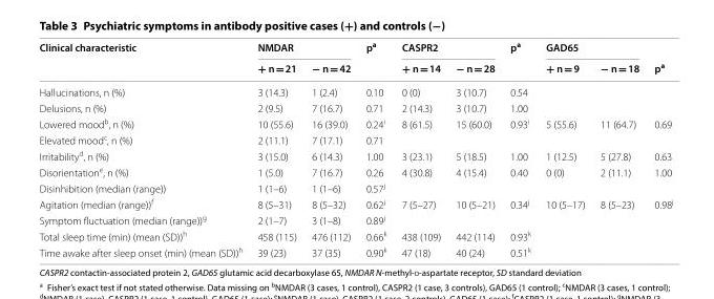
<table><thead><tr><td rowspan="2">Clinical characteristic</td><td colspan="2">NMDAR</td><td rowspan="2">p<sup>a</sup></td><td colspan="2">CASPR2</td><td rowspan="2">p<sup>a</sup></td><td colspan="2">GAD65</td><td rowspan="2">p<sup>a</sup></td></tr><tr><td>+ n = 21</td><td>− n = 42</td><td>+ n = 14</td><td>− n = 28</td><td>+ n = 9</td><td>− n = 18</td></tr></thead><tbody><tr><td>Hallucinations, n (%)</td><td>3 (14.3)</td><td>1 (2.4)</td><td>0.10</td><td>0 (0)</td><td>3 (10.7)</td><td>0.54</td><td></td><td></td><td></td></tr><tr><td>Delusions, n (%)</td><td>2 (9.5)</td><td>7 (16.7)</td><td>0.71</td><td>2 (14.3)</td><td>3 (10.7)</td><td>1.00</td><td></td><td></td><td></td></tr><tr><td>Lowered mood<sup>b</sup>, n (%)</td><td>10 (55.6)</td><td>16 (39.0)</td><td>0.24<sup>i</sup></td><td>8 (61.5)</td><td>15 (60.0)</td><td>0.93<sup>i</sup></td><td>5 (55.6)</td><td>11 (64.7)</td><td>0.69</td></tr><tr><td>Elevated mood<sup>c</sup>, n (%)</td><td>2 (11.1)</td><td>7 (17.1)</td><td>0.71</td><td></td><td></td><td></td><td></td><td></td><td></td></tr><tr><td>Irritability<sup>d</sup>, n (%)</td><td>3 (15.0)</td><td>6 (14.3)</td><td>1.00</td><td>3 (23.1)</td><td>5 (18.5)</td><td>1.00</td><td>1 (12.5)</td><td>5 (27.8)</td><td>0.63</td></tr><tr><td>Disorientation<sup>e</sup>, n (%)</td><td>1 (5.0)</td><td>7 (16.7)</td><td>0.26</td><td>4 (30.8)</td><td>4 (15.4)</td><td>0.40</td><td>0 (0)</td><td>2 (11.1)</td><td>1.00</td></tr><tr><td>Disinhibition (median (range))</td><td>1 (1–6)</td><td>1 (1–6)</td><td>0.57<sup>j</sup></td><td></td><td></td><td></td><td></td><td></td><td></td></tr><tr><td>Agitation (median (range))<sup>f</sup></td><td>8 (5–31)</td><td>8 (5–32)</td><td>0.62<sup>j</sup></td><td>7 (5–27)</td><td>10 (5–21)</td><td>0.34<sup>j</sup></td><td>10 (5–17)</td><td>8 (5–23)</td><td>0.98<sup>j</sup></td></tr><tr><td>Symptom fluctuation (median (range))<sup>g</sup></td><td>2 (1–7)</td><td>3 (1–8)</td><td>0.89<sup>j</sup></td><td></td><td></td><td></td><td></td><td></td><td></td></tr><tr><td>Total sleep time (min) (mean (SD))<sup>h</sup></td><td>458 (115)</td><td>476 (112)</td><td>0.66<sup>k</sup></td><td>438 (109)</td><td>442 (114)</td><td>0.93<sup>k</sup></td><td></td><td></td><td></td></tr><tr><td>Time awake after sleep onset (min) (mean (SD))<sup>h</sup></td><td>39 (23)</td><td>37 (35)</td><td>0.90<sup>k</sup></td><td>47 (18)</td><td>40 (24)</td><td>0.51<sup>k</sup></td><td></td><td></td><td></td></tr></tbody></table>